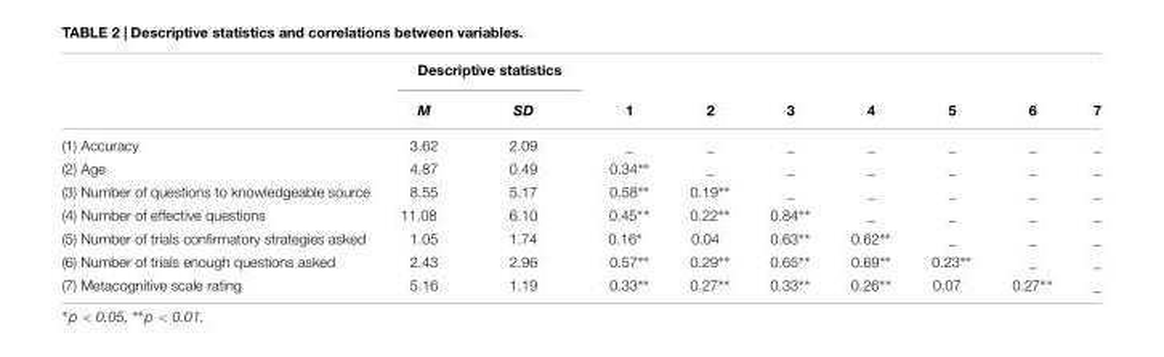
<table><thead><tr><td rowspan="2"></td><td colspan="2">Descriptive statistics</td><td rowspan="2">1</td><td rowspan="2">2</td><td rowspan="2">3</td><td rowspan="2">4</td><td rowspan="2">5</td><td rowspan="2">6</td><td rowspan="2">7</td></tr><tr><td>M</td><td>SD</td></tr></thead><tbody><tr><td>(1) Accuracy</td><td>3.62</td><td>2.09</td><td>_</td><td>_</td><td>_</td><td>_</td><td>_</td><td>_</td><td>_</td></tr><tr><td>(2) Age</td><td>4.87</td><td>0.49</td><td>0.34∗∗</td><td>_</td><td>_</td><td>_</td><td>_</td><td>_</td><td>_</td></tr><tr><td>(3) Number of questions to knowledgeable source</td><td>8.55</td><td>5.17</td><td>0.58∗∗</td><td>0.19∗∗</td><td>_</td><td>_</td><td>_</td><td>_</td><td>_</td></tr><tr><td>(4) Number of effective questions</td><td>11.08</td><td>6.10</td><td>0.45∗∗</td><td>0.22∗∗</td><td>0.84∗∗</td><td>_</td><td>_</td><td>_</td><td>_</td></tr><tr><td>(5) Number of trials confirmatory strategies asked</td><td>1.05</td><td>1.74</td><td>0.16∗</td><td>0.04</td><td>0.63∗∗</td><td>0.62∗∗</td><td>_</td><td>_</td><td>_</td></tr><tr><td>(6) Number of trials enough questions asked</td><td>2.43</td><td>2.96</td><td>0.57∗∗</td><td>0.29∗∗</td><td>0.65∗∗</td><td>0.69∗∗</td><td>0.23∗∗</td><td>_</td><td>_</td></tr><tr><td>(7) Metacognitive scale rating</td><td>5.16</td><td>1.19</td><td>0.33∗∗</td><td>0.27∗∗</td><td>0.33∗∗</td><td>0.26∗∗</td><td>0.07</td><td>0.27∗∗</td><td>_</td></tr></tbody></table>